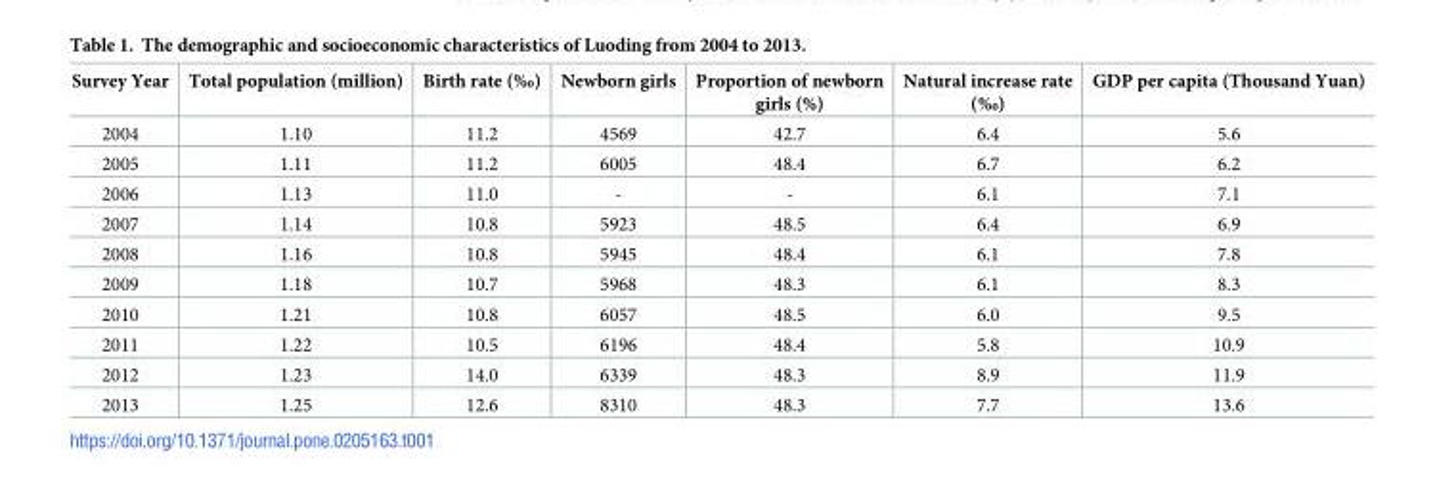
<table><thead><tr><td>Survey Year</td><td>Total population (million)</td><td>Birth rate (‰)</td><td>Newborn girls</td><td>Proportion of newborn girls (%)</td><td>Natural increase rate (‰)</td><td>GDP per capita (Thousand Yuan)</td></tr></thead><tbody><tr><td>2004</td><td>1.10</td><td>11.2</td><td>4569</td><td>42.7</td><td>6.4</td><td>5.6</td></tr><tr><td>2005</td><td>1.11</td><td>11.2</td><td>6005</td><td>48.4</td><td>6.7</td><td>6.2</td></tr><tr><td>2006</td><td>1.13</td><td>11.0</td><td>-</td><td>-</td><td>6.1</td><td>7.1</td></tr><tr><td>2007</td><td>1.14</td><td>10.8</td><td>5923</td><td>48.5</td><td>6.4</td><td>6.9</td></tr><tr><td>2008</td><td>1.16</td><td>10.8</td><td>5945</td><td>48.4</td><td>6.1</td><td>7.8</td></tr><tr><td>2009</td><td>1.18</td><td>10.7</td><td>5968</td><td>48.3</td><td>6.1</td><td>8.3</td></tr><tr><td>2010</td><td>1.21</td><td>10.8</td><td>6057</td><td>48.5</td><td>6.0</td><td>9.5</td></tr><tr><td>2011</td><td>1.22</td><td>10.5</td><td>6196</td><td>48.4</td><td>5.8</td><td>10.9</td></tr><tr><td>2012</td><td>1.23</td><td>14.0</td><td>6339</td><td>48.3</td><td>8.9</td><td>11.9</td></tr><tr><td>2013</td><td>1.25</td><td>12.6</td><td>8310</td><td>48.3</td><td>7.7</td><td>13.6</td></tr></tbody></table>